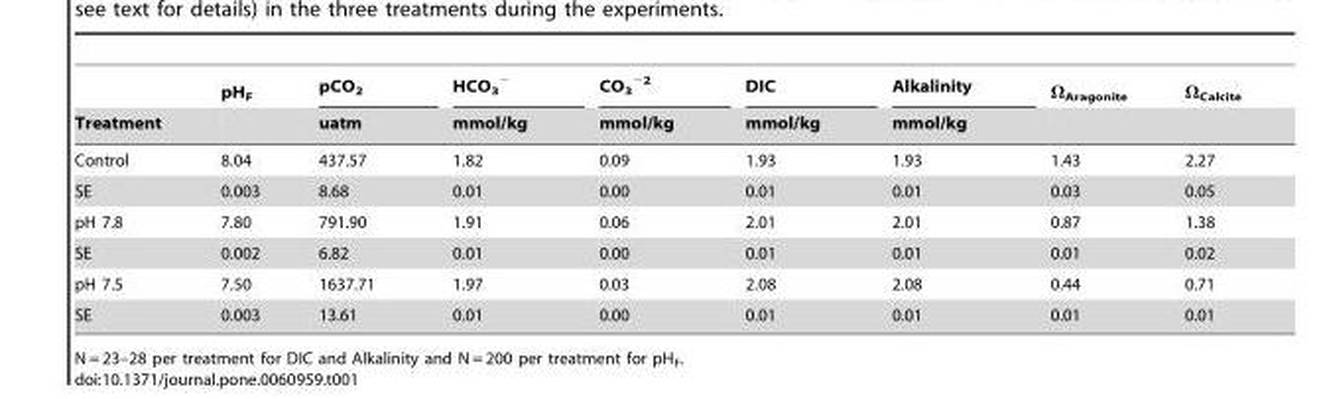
<table><thead><tr><td rowspan="2">Treatment</td><td rowspan="2">pH<sub>F</sub></td><td rowspan="2">pCO<sub>2</sub> uatm</td><td rowspan="2">HCO<sub>3</sub> <sup>−</sup> mmol/kg</td><td rowspan="2">CO<sub>3</sub> <sup>−2</sup> mmol/kg</td><td rowspan="2">DIC mmol/kg</td><td rowspan="2">Alkalinity mmol/kg</td><td rowspan="2">Ω<sub>Aragonite</sub></td><td rowspan="2">Ω<sub>Calcite</sub></td></tr><tr></tr></thead><tbody><tr><td>Control</td><td>8.04</td><td>437.57</td><td>1.82</td><td>0.09</td><td>1.93</td><td>1.93</td><td>1.43</td><td>2.27</td></tr><tr><td>SE</td><td>0.003</td><td>8.68</td><td>0.01</td><td>0.00</td><td>0.01</td><td>0.01</td><td>0.03</td><td>0.05</td></tr><tr><td>pH 7.8</td><td>7.80</td><td>791.90</td><td>1.91</td><td>0.06</td><td>2.01</td><td>2.01</td><td>0.87</td><td>1.38</td></tr><tr><td>SE</td><td>0.002</td><td>6.82</td><td>0.01</td><td>0.00</td><td>0.01</td><td>0.01</td><td>0.01</td><td>0.02</td></tr><tr><td>pH 7.5</td><td>7.50</td><td>1637.71</td><td>1.97</td><td>0.03</td><td>2.08</td><td>2.08</td><td>0.44</td><td>0.71</td></tr><tr><td>SE</td><td>0.003</td><td>13.61</td><td>0.01</td><td>0.00</td><td>0.01</td><td>0.01</td><td>0.01</td><td>0.01</td></tr></tbody></table>